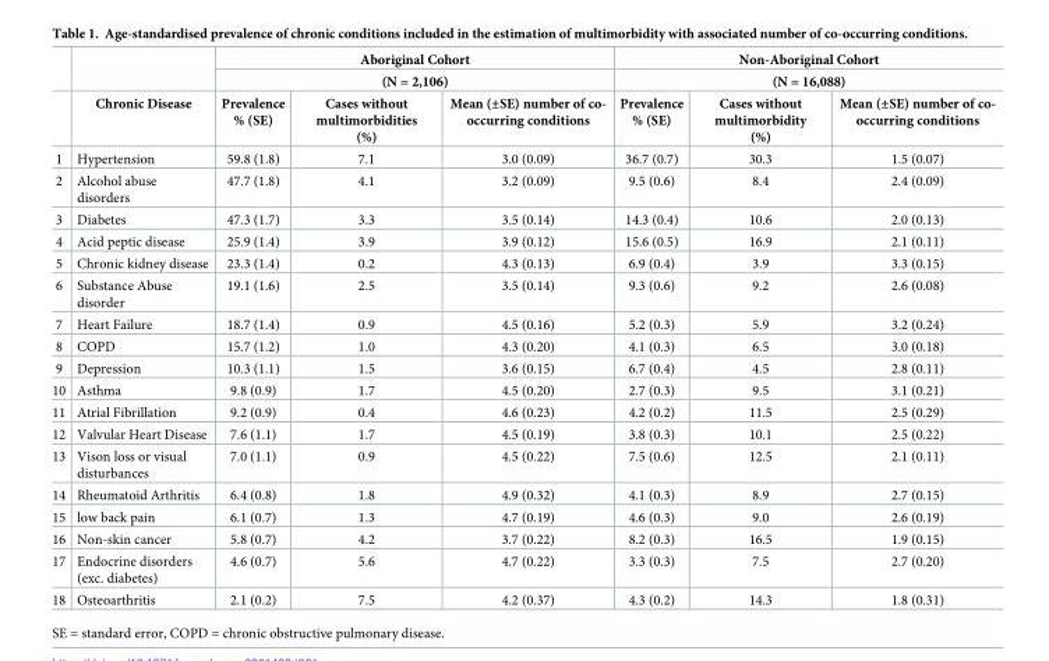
<table><thead><tr><td rowspan="3"></td><td rowspan="3">Chronic Disease</td><td rowspan="2" colspan="3">Aboriginal Cohort (N = 2,106)</td><td rowspan="2" colspan="3">Non-Aboriginal Cohort (N = 16,088)</td></tr><tr></tr><tr><td>Prevalence % (SE)</td><td>Cases without multimorbidities (%)</td><td>Mean (±SE) number of co- occurring conditions</td><td>Prevalence % (SE)</td><td>Cases without multimorbidity (%)</td><td>Mean (±SE) number of co- occurring conditions</td></tr></thead><tbody><tr><td>1</td><td>Hypertension</td><td>59.8 (1.8)</td><td>7.1</td><td>3.0 (0.09)</td><td>36.7 (0.7)</td><td>30.3</td><td>1.5 (0.07)</td></tr><tr><td>2</td><td>Alcohol abuse disorders</td><td>47.7 (1.8)</td><td>4.1</td><td>3.2 (0.09)</td><td>9.5 (0.6)</td><td>8.4</td><td>2.4 (0.09)</td></tr><tr><td>3</td><td>Diabetes</td><td>47.3 (1.7)</td><td>3.3</td><td>3.5 (0.14)</td><td>14.3 (0.4)</td><td>10.6</td><td>2.0 (0.13)</td></tr><tr><td>4</td><td>Acid peptic disease</td><td>25.9 (1.4)</td><td>3.9</td><td>3.9 (0.12)</td><td>15.6 (0.5)</td><td>16.9</td><td>2.1 (0.11)</td></tr><tr><td>5</td><td>Chronic kidney disease</td><td>23.3 (1.4)</td><td>0.2</td><td>4.3 (0.13)</td><td>6.9 (0.4)</td><td>3.9</td><td>3.3 (0.15)</td></tr><tr><td>6</td><td>Substance Abuse disorder</td><td>19.1 (1.6)</td><td>2.5</td><td>3.5 (0.14)</td><td>9.3 (0.6)</td><td>9.2</td><td>2.6 (0.08)</td></tr><tr><td>7</td><td>Heart Failure</td><td>18.7 (1.4)</td><td>0.9</td><td>4.5 (0.16)</td><td>5.2 (0.3)</td><td>5.9</td><td>3.2 (0.24)</td></tr><tr><td>8</td><td>COPD</td><td>15.7 (1.2)</td><td>1.0</td><td>4.3 (0.20)</td><td>4.1 (0.3)</td><td>6.5</td><td>3.0 (0.18)</td></tr><tr><td>9</td><td>Depression</td><td>10.3 (1.1)</td><td>1.5</td><td>3.6 (0.15)</td><td>6.7 (0.4)</td><td>4.5</td><td>2.8 (0.11)</td></tr><tr><td>10</td><td>Asthma</td><td>9.8 (0.9)</td><td>1.7</td><td>4.5 (0.20)</td><td>2.7 (0.3)</td><td>9.5</td><td>3.1 (0.21)</td></tr><tr><td>11</td><td>Atrial Fibrillation</td><td>9.2 (0.9)</td><td>0.4</td><td>4.6 (0.23)</td><td>4.2 (0.2)</td><td>11.5</td><td>2.5 (0.29)</td></tr><tr><td>12</td><td>Valvular Heart Disease</td><td>7.6 (1.1)</td><td>1.7</td><td>4.5 (0.19)</td><td>3.8 (0.3)</td><td>10.1</td><td>2.5 (0.22)</td></tr><tr><td>13</td><td>Vison loss or visual disturbances</td><td>7.0 (1.1)</td><td>0.9</td><td>4.5 (0.22)</td><td>7.5 (0.6)</td><td>12.5</td><td>2.1 (0.11)</td></tr><tr><td>14</td><td>Rheumatoid Arthritis</td><td>6.4 (0.8)</td><td>1.8</td><td>4.9 (0.32)</td><td>4.1 (0.3)</td><td>8.9</td><td>2.7 (0.15)</td></tr><tr><td>15</td><td>low back pain</td><td>6.1 (0.7)</td><td>1.3</td><td>4.7 (0.19)</td><td>4.6 (0.3)</td><td>9.0</td><td>2.6 (0.19)</td></tr><tr><td>16</td><td>Non-skin cancer</td><td>5.8 (0.7)</td><td>4.2</td><td>3.7 (0.22)</td><td>8.2 (0.3)</td><td>16.5</td><td>1.9 (0.15)</td></tr><tr><td>17</td><td>Endocrine disorders (exc. diabetes)</td><td>4.6 (0.7)</td><td>5.6</td><td>4.7 (0.22)</td><td>3.3 (0.3)</td><td>7.5</td><td>2.7 (0.20)</td></tr><tr><td>18</td><td>Osteoarthritis</td><td>2.1 (0.2)</td><td>7.5</td><td>4.2 (0.37)</td><td>4.3 (0.2)</td><td>14.3</td><td>1.8 (0.31)</td></tr></tbody></table>